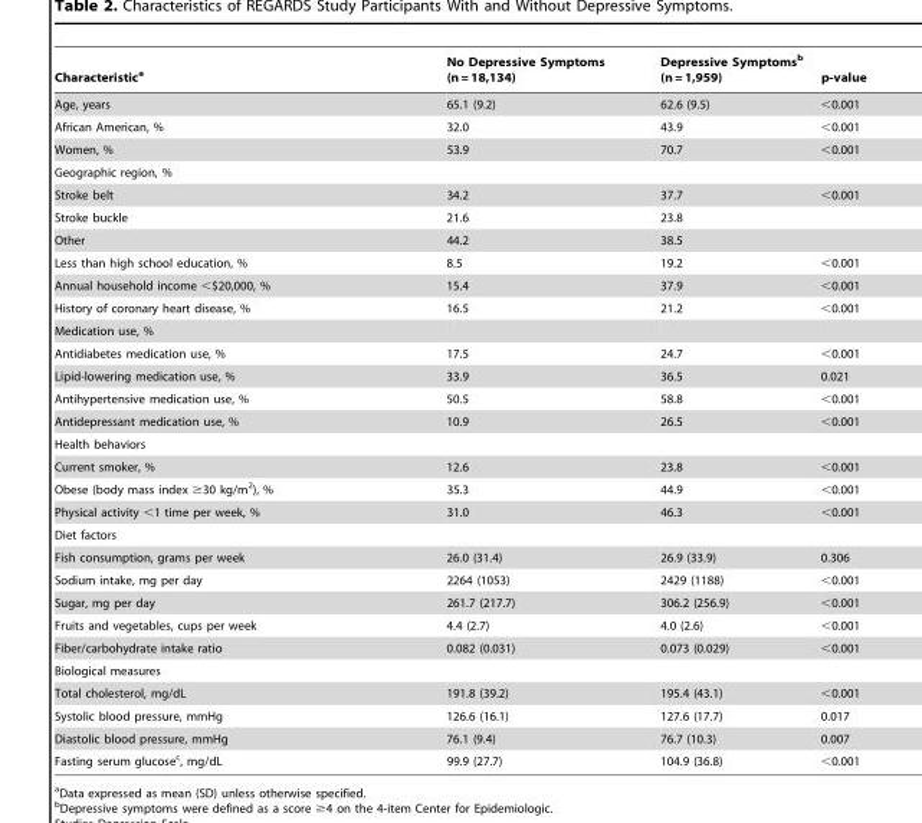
<table><thead><tr><td>Characteristic<sup>a</sup></td><td>No Depressive Symptoms (n = 18,134)</td><td>Depressive Symptoms<sup>b</sup> (n = 1,959)</td><td>p-value</td></tr></thead><tbody><tr><td>Age, years</td><td>65.1 (9.2)</td><td>62.6 (9.5)</td><td>&lt;0.001</td></tr><tr><td>African American, %</td><td>32.0</td><td>43.9</td><td>&lt;0.001</td></tr><tr><td>Women, %</td><td>53.9</td><td>70.7</td><td>&lt;0.001</td></tr><tr><td colspan="4">Geographic region, %</td></tr><tr><td>Stroke belt</td><td>34.2</td><td>37.7</td><td>&lt;0.001</td></tr><tr><td>Stroke buckle</td><td>21.6</td><td>23.8</td><td></td></tr><tr><td>Other</td><td>44.2</td><td>38.5</td><td></td></tr><tr><td>Less than high school education, %</td><td>8.5</td><td>19.2</td><td>&lt;0.001</td></tr><tr><td>Annual household income &lt;$20,000, %</td><td>15.4</td><td>37.9</td><td>&lt;0.001</td></tr><tr><td>History of coronary heart disease, %</td><td>16.5</td><td>21.2</td><td>&lt;0.001</td></tr><tr><td colspan="4">Medication use, %</td></tr><tr><td>Antidiabetes medication use, %</td><td>17.5</td><td>24.7</td><td>&lt;0.001</td></tr><tr><td>Lipid-lowering medication use, %</td><td>33.9</td><td>36.5</td><td>0.021</td></tr><tr><td>Antihypertensive medication use, %</td><td>50.5</td><td>58.8</td><td>&lt;0.001</td></tr><tr><td>Antidepressant medication use, %</td><td>10.9</td><td>26.5</td><td>&lt;0.001</td></tr><tr><td colspan="4">Health behaviors</td></tr><tr><td>Current smoker, %</td><td>12.6</td><td>23.8</td><td>&lt;0.001</td></tr><tr><td>Obese (body mass index ≥30 kg/m<sup>2</sup>), %</td><td>35.3</td><td>44.9</td><td>&lt;0.001</td></tr><tr><td>Physical activity &lt;1 time per week, %</td><td>31.0</td><td>46.3</td><td>&lt;0.001</td></tr><tr><td colspan="4">Diet factors</td></tr><tr><td>Fish consumption, grams per week</td><td>26.0 (31.4)</td><td>26.9 (33.9)</td><td>0.306</td></tr><tr><td>Sodium intake, mg per day</td><td>2264 (1053)</td><td>2429 (1188)</td><td>&lt;0.001</td></tr><tr><td>Sugar, mg per day</td><td>261.7 (217.7)</td><td>306.2 (256.9)</td><td>&lt;0.001</td></tr><tr><td>Fruits and vegetables, cups per week</td><td>4.4 (2.7)</td><td>4.0 (2.6)</td><td>&lt;0.001</td></tr><tr><td>Fiber/carbohydrate intake ratio</td><td>0.082 (0.031)</td><td>0.073 (0.029)</td><td>&lt;0.001</td></tr><tr><td colspan="4">Biological measures</td></tr><tr><td>Total cholesterol, mg/dL</td><td>191.8 (39.2)</td><td>195.4 (43.1)</td><td>&lt;0.001</td></tr><tr><td>Systolic blood pressure, mmHg</td><td>126.6 (16.1)</td><td>127.6 (17.7)</td><td>0.017</td></tr><tr><td>Diastolic blood pressure, mmHg</td><td>76.1 (9.4)</td><td>76.7 (10.3)</td><td>0.007</td></tr><tr><td>Fasting serum glucose<sup>c</sup>, mg/dL</td><td>99.9 (27.7)</td><td>104.9 (36.8)</td><td>&lt;0.001</td></tr></tbody></table>